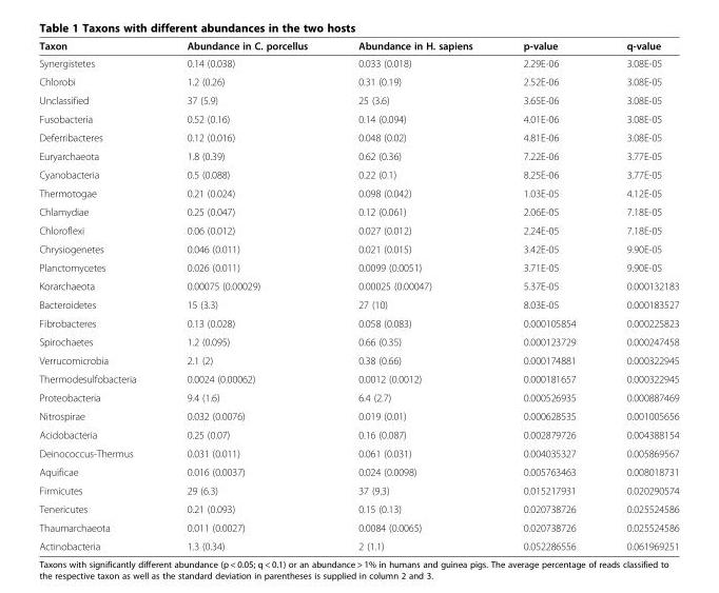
<table><thead><tr><td>Taxon</td><td>Abundance in C. porcellus</td><td>Abundance in H. sapiens</td><td>p-value</td><td>q-value</td></tr></thead><tbody><tr><td>Synergistetes</td><td>0.14 (0.038)</td><td>0.033 (0.018)</td><td>2.29E-06</td><td>3.08E-05</td></tr><tr><td>Chlorobi</td><td>1.2 (0.26)</td><td>0.31 (0.19)</td><td>2.52E-06</td><td>3.08E-05</td></tr><tr><td>Unclassified</td><td>37 (5.9)</td><td>25 (3.6)</td><td>3.65E-06</td><td>3.08E-05</td></tr><tr><td>Fusobacteria</td><td>0.52 (0.16)</td><td>0.14 (0.094)</td><td>4.01E-06</td><td>3.08E-05</td></tr><tr><td>Deferribacteres</td><td>0.12 (0.016)</td><td>0.048 (0.02)</td><td>4.81E-06</td><td>3.08E-05</td></tr><tr><td>Euryarchaeota</td><td>1.8 (0.39)</td><td>0.62 (0.36)</td><td>7.22E-06</td><td>3.77E-05</td></tr><tr><td>Cyanobacteria</td><td>0.5 (0.088)</td><td>0.22 (0.1)</td><td>8.25E-06</td><td>3.77E-05</td></tr><tr><td>Thermotogae</td><td>0.21 (0.024)</td><td>0.098 (0.042)</td><td>1.03E-05</td><td>4.12E-05</td></tr><tr><td>Chlamydiae</td><td>0.25 (0.047)</td><td>0.12 (0.061)</td><td>2.06E-05</td><td>7.18E-05</td></tr><tr><td>Chloroflexi</td><td>0.06 (0.012)</td><td>0.027 (0.012)</td><td>2.24E-05</td><td>7.18E-05</td></tr><tr><td>Chrysiogenetes</td><td>0.046 (0.011)</td><td>0.021 (0.015)</td><td>3.42E-05</td><td>9.90E-05</td></tr><tr><td>Planctomycetes</td><td>0.026 (0.011)</td><td>0.0099 (0.0051)</td><td>3.71E-05</td><td>9.90E-05</td></tr><tr><td>Korarchaeota</td><td>0.00075 (0.00029)</td><td>0.00025 (0.00047)</td><td>5.37E-05</td><td>0.000132183</td></tr><tr><td>Bacteroidetes</td><td>15 (3.3)</td><td>27 (10)</td><td>8.03E-05</td><td>0.000183527</td></tr><tr><td>Fibrobacteres</td><td>0.13 (0.028)</td><td>0.058 (0.083)</td><td>0.000105854</td><td>0.000225823</td></tr><tr><td>Spirochaetes</td><td>1.2 (0.095)</td><td>0.66 (0.35)</td><td>0.000123729</td><td>0.000247458</td></tr><tr><td>Verrucomicrobia</td><td>2.1 (2)</td><td>0.38 (0.66)</td><td>0.000174881</td><td>0.000322945</td></tr><tr><td>Thermodesulfobacteria</td><td>0.0024 (0.00062)</td><td>0.0012 (0.0012)</td><td>0.000181657</td><td>0.000322945</td></tr><tr><td>Proteobacteria</td><td>9.4 (1.6)</td><td>6.4 (2.7)</td><td>0.000526935</td><td>0.000887469</td></tr><tr><td>Nitrospirae</td><td>0.032 (0.0076)</td><td>0.019 (0.01)</td><td>0.000628535</td><td>0.001005656</td></tr><tr><td>Acidobacteria</td><td>0.25 (0.07)</td><td>0.16 (0.087)</td><td>0.002879726</td><td>0.004388154</td></tr><tr><td>Deinococcus-Thermus</td><td>0.031 (0.011)</td><td>0.061 (0.031)</td><td>0.004035327</td><td>0.005869567</td></tr><tr><td>Aquificae</td><td>0.016 (0.0037)</td><td>0.024 (0.0098)</td><td>0.005763463</td><td>0.008018731</td></tr><tr><td>Firmicutes</td><td>29 (6.3)</td><td>37 (9.3)</td><td>0.015217931</td><td>0.020290574</td></tr><tr><td>Tenericutes</td><td>0.21 (0.093)</td><td>0.15 (0.13)</td><td>0.020738726</td><td>0.025524586</td></tr><tr><td>Thaumarchaeota</td><td>0.011 (0.0027)</td><td>0.0084 (0.0065)</td><td>0.020738726</td><td>0.025524586</td></tr><tr><td>Actinobacteria</td><td>1.3 (0.34)</td><td>2 (1.1)</td><td>0.052286556</td><td>0.061969251</td></tr></tbody></table>